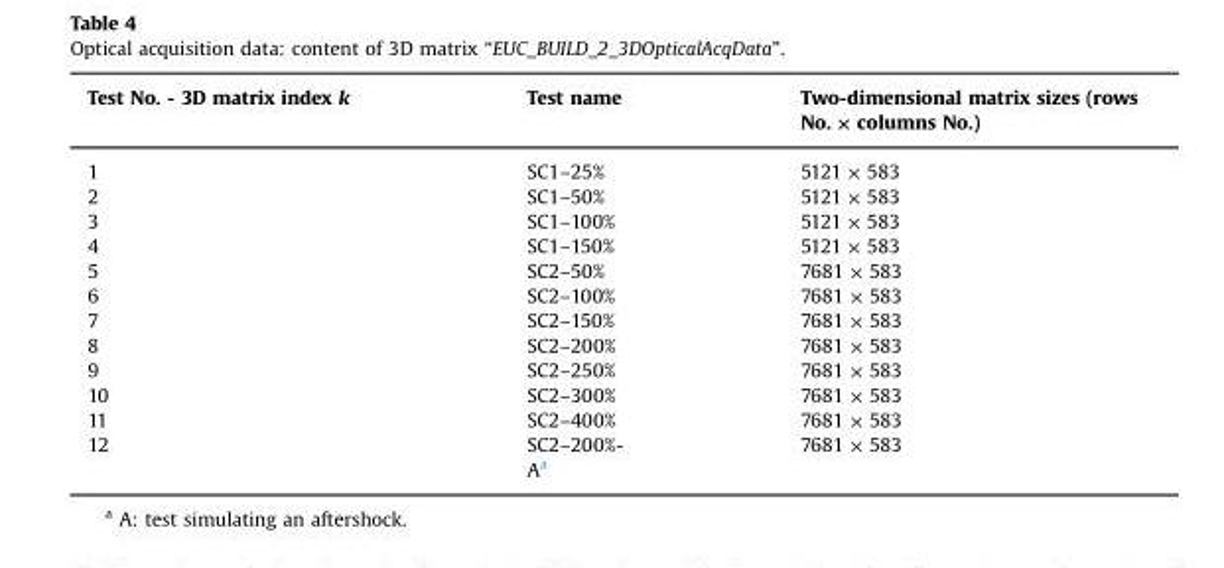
<table><thead><tr><td>Test No. - 3D matrix index k</td><td>Test name</td><td>Two-dimensional matrix sizes (rows No. × columns No.)</td></tr></thead><tbody><tr><td>1</td><td>SC1–25%</td><td>5121 × 583</td></tr><tr><td>2</td><td>SC1–50%</td><td>5121 × 583</td></tr><tr><td>3</td><td>SC1–100%</td><td>5121 × 583</td></tr><tr><td>4</td><td>SC1–150%</td><td>5121 × 583</td></tr><tr><td>5</td><td>SC2–50%</td><td>7681 × 583</td></tr><tr><td>6</td><td>SC2–100%</td><td>7681 × 583</td></tr><tr><td>7</td><td>SC2–150%</td><td>7681 × 583</td></tr><tr><td>8</td><td>SC2–200%</td><td>7681 × 583</td></tr><tr><td>9</td><td>SC2–250%</td><td>7681 × 583</td></tr><tr><td>10</td><td>SC2–300%</td><td>7681 × 583</td></tr><tr><td>11</td><td>SC2–400%</td><td>7681 × 583</td></tr><tr><td>12</td><td>SC2–200%- A<sup>a</sup></td><td>7681 × 583</td></tr></tbody></table>